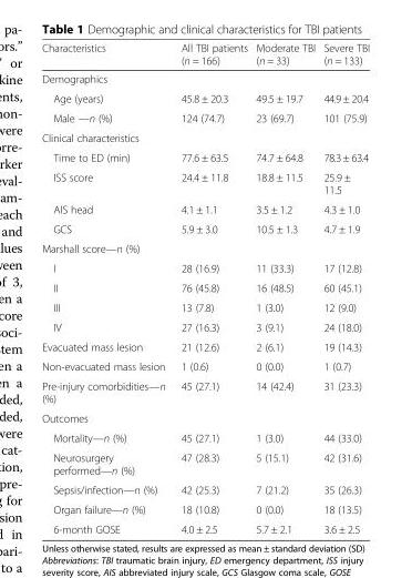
<table><thead><tr><td>Characteristics</td><td>All TBI patients (n = 166)</td><td>Moderate TBI (n = 33)</td><td>Severe TBI (n = 133)</td></tr></thead><tbody><tr><td colspan="4">Demographics</td></tr><tr><td>Age (years)</td><td>45.8 ± 20.3</td><td>49.5 ± 19.7</td><td>44.9 ± 20.4</td></tr><tr><td>Male —n (%)</td><td>124 (74.7)</td><td>23 (69.7)</td><td>101 (75.9)</td></tr><tr><td colspan="4">Clinical characteristics</td></tr><tr><td>Time to ED (min)</td><td>77.6 ± 63.5</td><td>74.7 ± 64.8</td><td>78.3 ± 63.4</td></tr><tr><td>ISS score</td><td>24.4 ± 11.8</td><td>18.8 ± 11.5</td><td>25.9 ± 11.5</td></tr><tr><td>AIS head</td><td>4.1 ± 1.1</td><td>3.5 ± 1.2</td><td>4.3 ± 1.0</td></tr><tr><td>GCS</td><td>5.9 ± 3.0</td><td>10.5 ± 1.3</td><td>4.7 ± 1.9</td></tr><tr><td colspan="4">Marshall score—n (%)</td></tr><tr><td>I</td><td>28 (16.9)</td><td>11 (33.3)</td><td>17 (12.8)</td></tr><tr><td>II</td><td>76 (45.8)</td><td>16 (48.5)</td><td>60 (45.1)</td></tr><tr><td>III</td><td>13 (7.8)</td><td>1 (3.0)</td><td>12 (9.0)</td></tr><tr><td>IV</td><td>27 (16.3)</td><td>3 (9.1)</td><td>24 (18.0)</td></tr><tr><td>Evacuated mass lesion</td><td>21 (12.6)</td><td>2 (6.1)</td><td>19 (14.3)</td></tr><tr><td>Non-evacuated mass lesion</td><td>1 (0.6)</td><td>0 (0.0)</td><td>1 (0.7)</td></tr><tr><td>Pre-injury comorbidities—n (%)</td><td>45 (27.1)</td><td>14 (42.4)</td><td>31 (23.3)</td></tr><tr><td colspan="4">Outcomes</td></tr><tr><td>Mortality—n (%)</td><td>45 (27.1)</td><td>1 (3.0)</td><td>44 (33.0)</td></tr><tr><td>Neurosurgery performed—n (%)</td><td>47 (28.3)</td><td>5 (15.1)</td><td>42 (31.6)</td></tr><tr><td>Sepsis/infection—n (%)</td><td>42 (25.3)</td><td>7 (21.2)</td><td>35 (26.3)</td></tr><tr><td>Organ failure—n (%)</td><td>18 (10.8)</td><td>0 (0.0)</td><td>18 (13.5)</td></tr><tr><td>6-month GOSE</td><td>4.0 ± 2.5</td><td>5.7 ± 2.1</td><td>3.6 ± 2.5</td></tr></tbody></table>